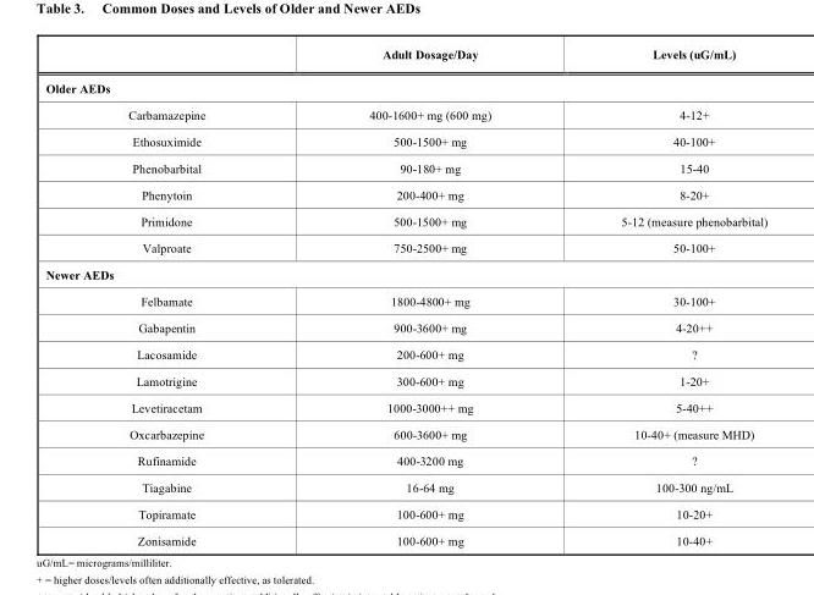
<table><thead><tr><td></td><td>Adult Dosage/Day</td><td>Levels (uG/mL)</td></tr></thead><tbody><tr><td colspan="3">Older AEDs</td></tr><tr><td>Carbamazepine</td><td>400-1600+ mg (600 mg)</td><td>4-12+</td></tr><tr><td>Ethosuximide</td><td>500-1500+ mg</td><td>40-100+</td></tr><tr><td>Phenobarbital</td><td>90-180+ mg</td><td>15-40</td></tr><tr><td>Phenytoin</td><td>200-400+ mg</td><td>8-20+</td></tr><tr><td>Primidone</td><td>500-1500+ mg</td><td>5-12 (measure phenobarbital)</td></tr><tr><td>Valproate</td><td>750-2500+ mg</td><td>50-100+</td></tr><tr><td colspan="3">Newer AEDs</td></tr><tr><td>Felbamate</td><td>1800-4800+ mg</td><td>30-100+</td></tr><tr><td>Gabapentin</td><td>900-3600+ mg</td><td>4-20++</td></tr><tr><td>Lacosamide</td><td>200-600+ mg</td><td>?</td></tr><tr><td>Lamotrigine</td><td>300-600+ mg</td><td>1-20+</td></tr><tr><td>Levetiracetam</td><td>1000-3000++ mg</td><td>5-40++</td></tr><tr><td>Oxcarbazepine</td><td>600-3600+ mg</td><td>10-40+ (measure MHD)</td></tr><tr><td>Rufinamide</td><td>400-3200 mg</td><td>?</td></tr><tr><td>Tiagabine</td><td>16-64 mg</td><td>100-300 ng/mL</td></tr><tr><td>Topiramate</td><td>100-600+ mg</td><td>10-20+</td></tr><tr><td>Zonisamide</td><td>100-600+ mg</td><td>10-40+</td></tr></tbody></table>